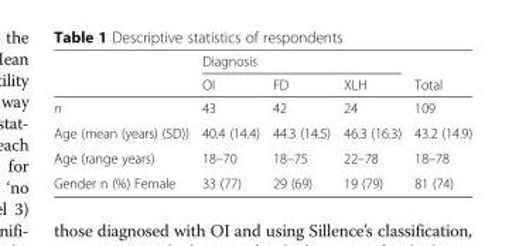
<table><thead><tr><td rowspan="2"></td><td colspan="3">Diagnosis</td><td rowspan="2">Total</td></tr><tr><td>OI</td><td>FD</td><td>XLH</td></tr></thead><tbody><tr><td>n</td><td>43</td><td>42</td><td>24</td><td>109</td></tr><tr><td>Age (mean (years) (SD))</td><td>40.4 (14.4)</td><td>44.3 (14.5)</td><td>46.3 (16.3)</td><td>43.2 (14.9)</td></tr><tr><td>Age (range years)</td><td>18–70</td><td>18–75</td><td>22–78</td><td>18–78</td></tr><tr><td>Gender n (%) Female</td><td>33 (77)</td><td>29 (69)</td><td>19 (79)</td><td>81 (74)</td></tr></tbody></table>